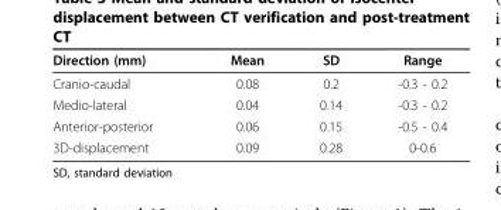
<table><thead><tr><td>Direction (mm)</td><td>Mean</td><td>SD</td><td>Range</td></tr></thead><tbody><tr><td>Cranio-caudal</td><td>0.08</td><td>0.2</td><td>-0.3 - 0.2</td></tr><tr><td>Medio-lateral</td><td>0.04</td><td>0.14</td><td>-0.3 - 0.2</td></tr><tr><td>Anterior-posterior</td><td>0.06</td><td>0.15</td><td>-0.5 - 0.4</td></tr><tr><td>3D-displacement</td><td>0.09</td><td>0.28</td><td>0-0.6</td></tr></tbody></table>